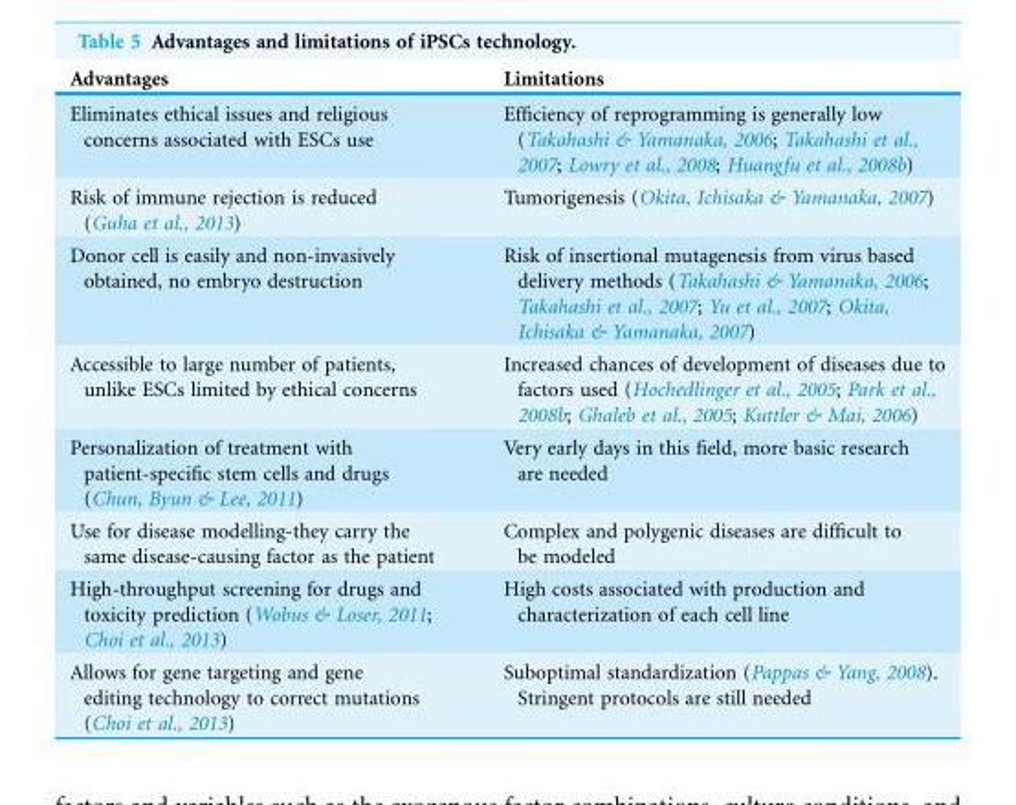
<table><thead><tr><td>Advantages</td><td>Limitations</td></tr></thead><tbody><tr><td>Eliminates ethical issues and religious concerns associated with ESCs use</td><td>Efficiency of reprogramming is generally low (Takahashi &amp; Yamanaka, 2006; Takahashi et al., 2007; Lowry et al., 2008; Huangfu et al., 2008b)</td></tr><tr><td>Risk of immune rejection is reduced (Guha et al., 2013)</td><td>Tumorigenesis (Okita, Ichisaka &amp; Yamanaka, 2007)</td></tr><tr><td>Donor cell is easily and non-invasively obtained, no embryo destruction</td><td>Risk of insertional mutagenesis from virus based delivery methods (Takahashi &amp; Yamanaka, 2006; Takahashi et al., 2007; Yu et al., 2007; Okita, Ichisaka &amp; Yamanaka, 2007)</td></tr><tr><td>Accessible to large number of patients, unlike ESCs limited by ethical concerns</td><td>Increased chances of development of diseases due to factors used (Hochedlinger et al., 2005; Park et al., 2008b; Ghaleb et al., 2005; Kuttler &amp; Mai, 2006)</td></tr><tr><td>Personalization of treatment with patient-specific stem cells and drugs (Chun, Byun &amp; Lee, 2011)</td><td>Very early days in this field, more basic research are needed</td></tr><tr><td>Use for disease modelling-they carry the same disease-causing factor as the patient</td><td>Complex and polygenic diseases are difficult to be modeled</td></tr><tr><td>High-throughput screening for drugs and toxicity prediction (Wobus &amp; Loser, 2011; Choi et al., 2013)</td><td>High costs associated with production and characterization of each cell line</td></tr><tr><td>Allows for gene targeting and gene editing technology to correct mutations (Choi et al., 2013)</td><td>Suboptimal standardization (Pappas &amp; Yang, 2008). Stringent protocols are still needed</td></tr></tbody></table>